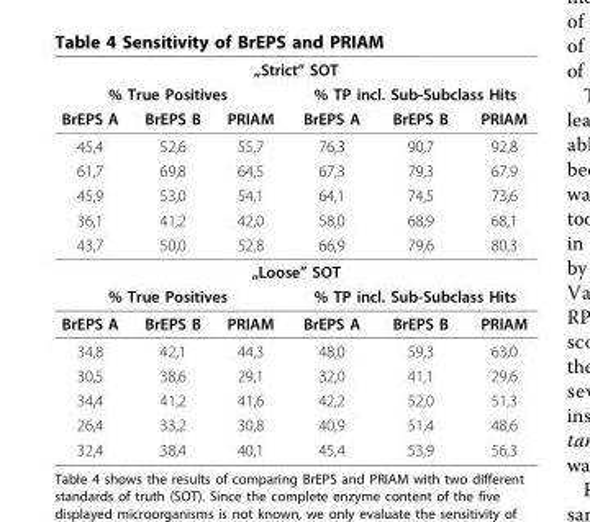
<table><thead><tr><td colspan="6">„Strict” SOT</td></tr><tr><td colspan="3">% True Positives</td><td colspan="3">% TP incl. Sub-Subclass Hits</td></tr><tr><td>BrEPS A</td><td>BrEPS B</td><td>PRIAM</td><td>BrEPS A</td><td>BrEPS B</td><td>PRIAM</td></tr></thead><tbody><tr><td>45,4</td><td>52,6</td><td>55,7</td><td>76,3</td><td>90,7</td><td>92,8</td></tr><tr><td>61,7</td><td>69,8</td><td>64,5</td><td>67,3</td><td>79,3</td><td>67,9</td></tr><tr><td>45,9</td><td>53,0</td><td>54,1</td><td>64,1</td><td>74,5</td><td>73,6</td></tr><tr><td>36,1</td><td>41,2</td><td>42,0</td><td>58,0</td><td>68,9</td><td>68,1</td></tr><tr><td>43,7</td><td>50,0</td><td>52,8</td><td>66,9</td><td>79,6</td><td>80,3</td></tr><tr><td colspan="6">„Loose” SOT</td></tr><tr><td colspan="3">% True Positives</td><td colspan="3">% TP incl. Sub-Subclass Hits</td></tr><tr><td>BrEPS A</td><td>BrEPS B</td><td>PRIAM</td><td>BrEPS A</td><td>BrEPS B</td><td>PRIAM</td></tr><tr><td>34,8</td><td>42,1</td><td>44,3</td><td>48,0</td><td>59,3</td><td>63,0</td></tr><tr><td>30,5</td><td>38,6</td><td>29,1</td><td>32,0</td><td>41,1</td><td>29,6</td></tr><tr><td>34,4</td><td>41,2</td><td>41,6</td><td>42,2</td><td>52,0</td><td>51,3</td></tr><tr><td>26,4</td><td>33,2</td><td>30,8</td><td>40,9</td><td>51,4</td><td>48,6</td></tr><tr><td>32,4</td><td>38,4</td><td>40,1</td><td>45,4</td><td>53,9</td><td>56,3</td></tr></tbody></table>